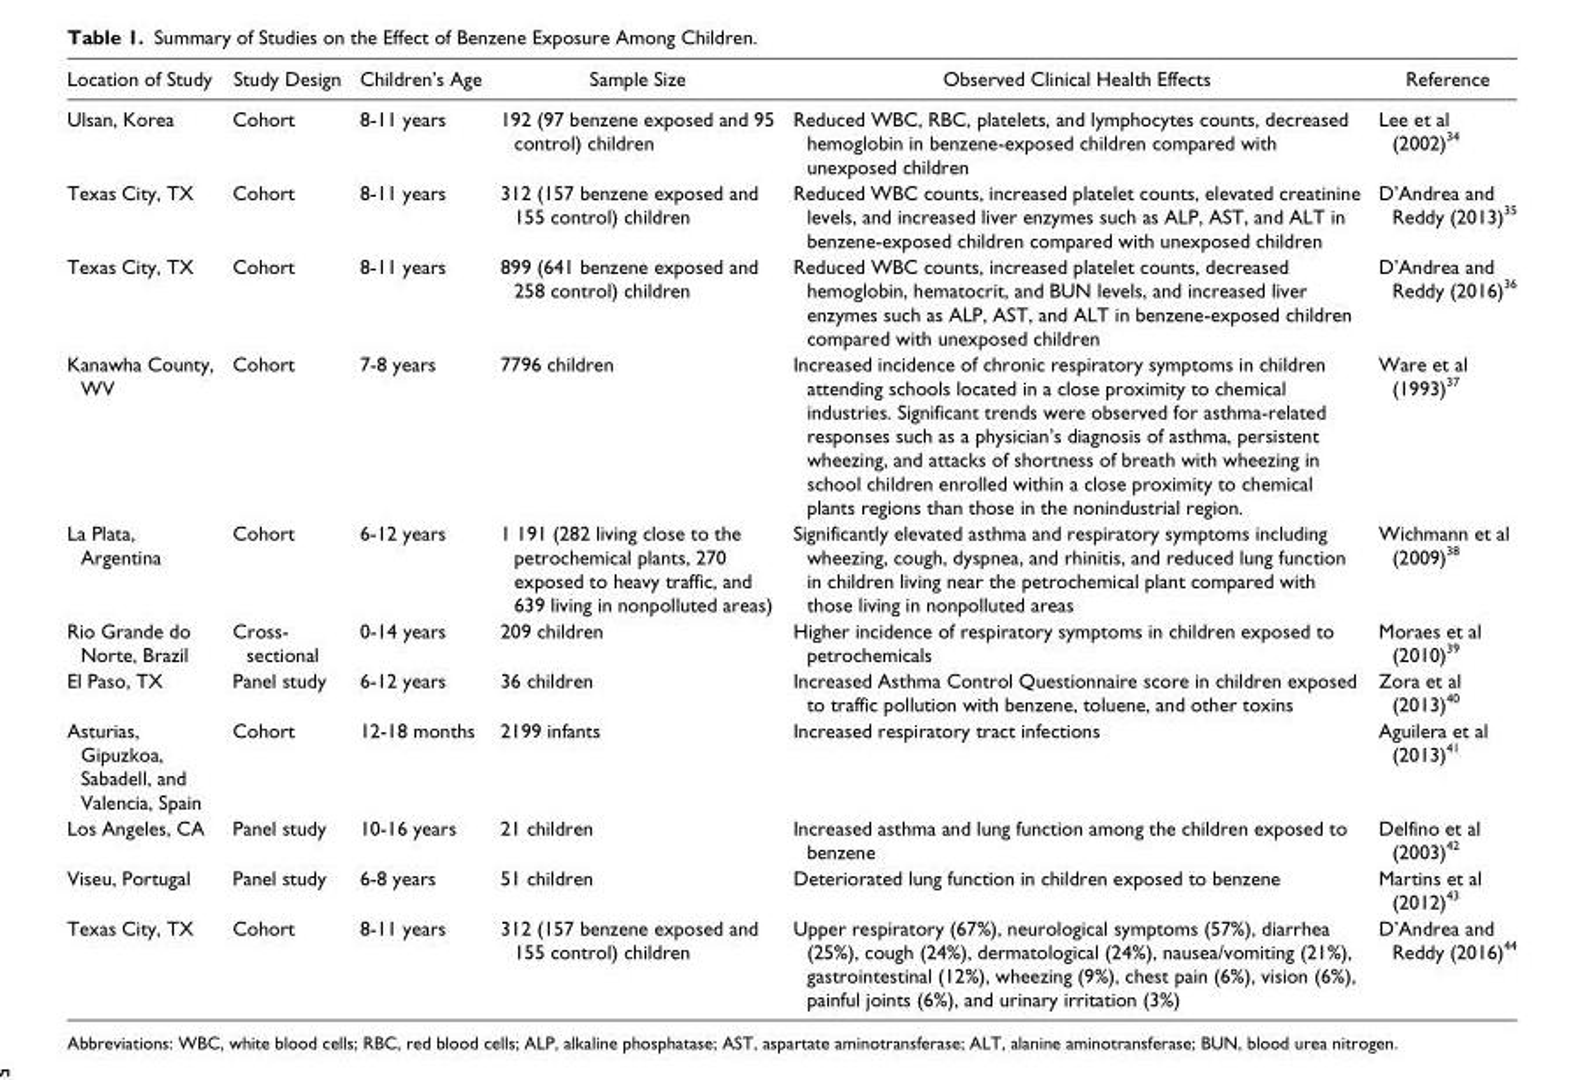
<table><thead><tr><td>Location of Study</td><td>Study Design</td><td>Children’s Age</td><td>Sample Size</td><td>Observed Clinical Health Effects</td><td>Reference</td></tr></thead><tbody><tr><td>Ulsan, Korea</td><td>Cohort</td><td>8-11 years</td><td>192 (97 benzene exposed and 95 control) children</td><td>Reduced WBC, RBC, platelets, and lymphocytes counts, decreased hemoglobin in benzene-exposed children compared with unexposed children</td><td>Lee et al (2002)<sup>34</sup></td></tr><tr><td>Texas City, TX</td><td>Cohort</td><td>8-11 years</td><td>312 (157 benzene exposed and 155 control) children</td><td>Reduced WBC counts, increased platelet counts, elevated creatinine levels, and increased liver enzymes such as ALP, AST, and ALT in benzene-exposed children compared with unexposed children</td><td>D’Andrea and Reddy (2013)<sup>35</sup></td></tr><tr><td>Texas City, TX</td><td>Cohort</td><td>8-11 years</td><td>899 (641 benzene exposed and 258 control) children</td><td>Reduced WBC counts, increased platelet counts, decreased hemoglobin, hematocrit, and BUN levels, and increased liver enzymes such as ALP, AST, and ALT in benzene-exposed children compared with unexposed children</td><td>D’Andrea and Reddy (2016)<sup>36</sup></td></tr><tr><td>Kanawha County, WV</td><td>Cohort</td><td>7-8 years</td><td>7796 children</td><td>Increased incidence of chronic respiratory symptoms in children attending schools located in a close proximity to chemical industries. Significant trends were observed for asthma-related responses such as a physician’s diagnosis of asthma, persistent wheezing, and attacks of shortness of breath with wheezing in school children enrolled within a close proximity to chemical plants regions than those in the nonindustrial region.</td><td>Ware et al (1993)<sup>37</sup></td></tr><tr><td>La Plata, Argentina</td><td>Cohort</td><td>6-12 years</td><td>1 191 (282 living close to the petrochemical plants, 270 exposed to heavy traffic, and 639 living in nonpolluted areas)</td><td>Significantly elevated asthma and respiratory symptoms including wheezing, cough, dyspnea, and rhinitis, and reduced lung function in children living near the petrochemical plant compared with those living in nonpolluted areas</td><td>Wichmann et al (2009)<sup>38</sup></td></tr><tr><td>Rio Grande do Norte, Brazil</td><td>Cross- sectional</td><td>0-14 years</td><td>209 children</td><td>Higher incidence of respiratory symptoms in children exposed to petrochemicals</td><td>Moraes et al (2010)<sup>39</sup></td></tr><tr><td>El Paso, TX</td><td>Panel study</td><td>6-12 years</td><td>36 children</td><td>Increased Asthma Control Questionnaire score in children exposed to traffic pollution with benzene, toluene, and other toxins</td><td>Zora et al (2013)<sup>40</sup></td></tr><tr><td>Asturias, Gipuzkoa, Sabadell, and Valencia, Spain</td><td>Cohort</td><td>12-18 months</td><td>2199 infants</td><td>Increased respiratory tract infections</td><td>Aguilera et al (2013)<sup>41</sup></td></tr><tr><td>Los Angeles, CA</td><td>Panel study</td><td>10-16 years</td><td>21 children</td><td>Increased asthma and lung function among the children exposed to benzene</td><td>Delfino et al (2003)<sup>42</sup></td></tr><tr><td>Viseu, Portugal</td><td>Panel study</td><td>6-8 years</td><td>51 children</td><td>Deteriorated lung function in children exposed to benzene</td><td>Martins et al (2012)<sup>43</sup></td></tr><tr><td>Texas City, TX</td><td>Cohort</td><td>8-11 years</td><td>312 (157 benzene exposed and 155 control) children</td><td>Upper respiratory (67%), neurological symptoms (57%), diarrhea (25%), cough (24%), dermatological (24%), nausea/vomiting (21%), gastrointestinal (12%), wheezing (9%), chest pain (6%), vision (6%), painful joints (6%), and urinary irritation (3%)</td><td>D’Andrea and Reddy (2016)<sup>44</sup></td></tr></tbody></table>